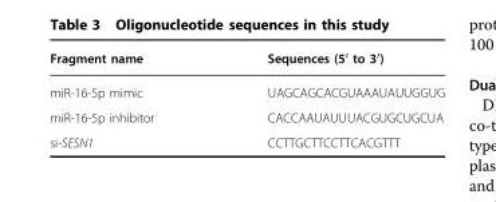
<table><thead><tr><td>Fragment name</td><td>Sequences (5′ to 3′)</td></tr></thead><tbody><tr><td>miR-16-5p mimic</td><td>UAGCAGCACGUAAAUAUUGGUG</td></tr><tr><td>miR-16-5p inhibitor</td><td>CACCAAUAUUUACGUGCUGCUA</td></tr><tr><td>si-SESN1</td><td>CCTTGCTTCCTTCACGTTT</td></tr></tbody></table>